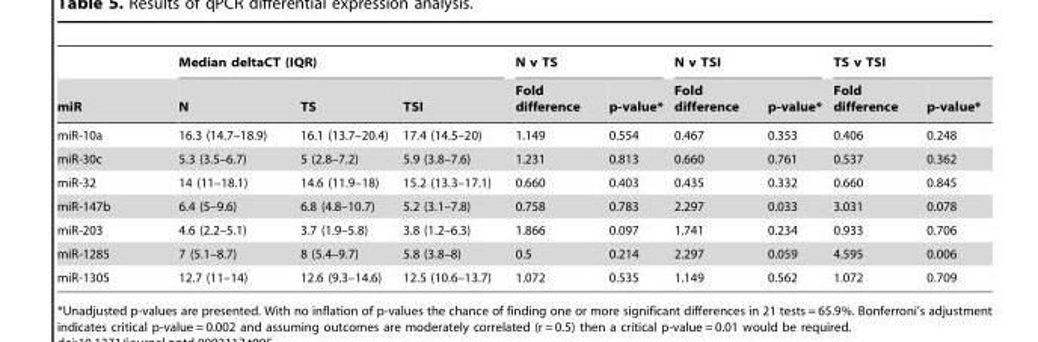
<table><thead><tr><td rowspan="2">miR</td><td colspan="3">Median deltaCT (IQR)</td><td colspan="2">N v TS</td><td colspan="2">N v TSI</td><td colspan="2">TS v TSI</td></tr><tr><td>N</td><td>TS</td><td>TSI</td><td>Fold difference</td><td>p-value*</td><td>Fold difference</td><td>p-value*</td><td>Fold difference</td><td>p-value*</td></tr></thead><tbody><tr><td>miR-10a</td><td>16.3 (14.7–18.9)</td><td>16.1 (13.7–20.4)</td><td>17.4 (14.5–20)</td><td>1.149</td><td>0.554</td><td>0.467</td><td>0.353</td><td>0.406</td><td>0.248</td></tr><tr><td>miR-30c</td><td>5.3 (3.5–6.7)</td><td>5 (2.8–7.2)</td><td>5.9 (3.8–7.6)</td><td>1.231</td><td>0.813</td><td>0.660</td><td>0.761</td><td>0.537</td><td>0.362</td></tr><tr><td>miR-32</td><td>14 (11–18.1)</td><td>14.6 (11.9–18)</td><td>15.2 (13.3–17.1)</td><td>0.660</td><td>0.403</td><td>0.435</td><td>0.332</td><td>0.660</td><td>0.845</td></tr><tr><td>miR-147b</td><td>6.4 (5–9.6)</td><td>6.8 (4.8–10.7)</td><td>5.2 (3.1–7.8)</td><td>0.758</td><td>0.783</td><td>2.297</td><td>0.033</td><td>3.031</td><td>0.078</td></tr><tr><td>miR-203</td><td>4.6 (2.2–5.1)</td><td>3.7 (1.9–5.8)</td><td>3.8 (1.2–6.3)</td><td>1.866</td><td>0.097</td><td>1.741</td><td>0.234</td><td>0.933</td><td>0.706</td></tr><tr><td>miR-1285</td><td>7 (5.1–8.7)</td><td>8 (5.4–9.7)</td><td>5.8 (3.8–8)</td><td>0.5</td><td>0.214</td><td>2.297</td><td>0.059</td><td>4.595</td><td>0.006</td></tr><tr><td>miR-1305</td><td>12.7 (11–14)</td><td>12.6 (9.3–14.6)</td><td>12.5 (10.6–13.7)</td><td>1.072</td><td>0.535</td><td>1.149</td><td>0.562</td><td>1.072</td><td>0.709</td></tr></tbody></table>